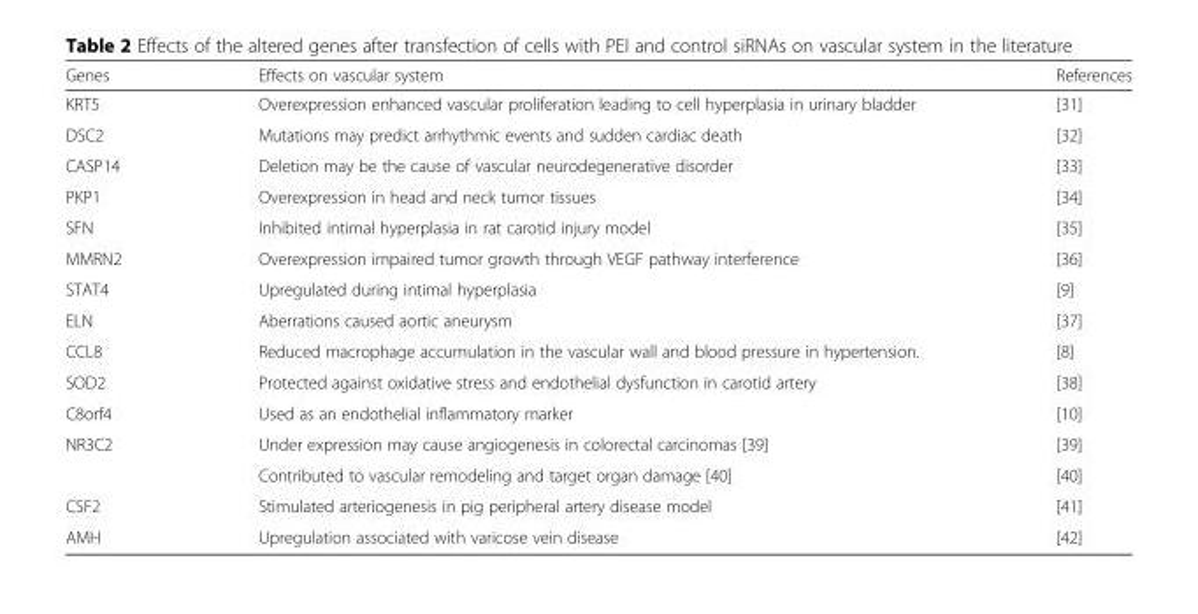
<table><thead><tr><td>Genes</td><td>Effects on vascular system</td><td>References</td></tr></thead><tbody><tr><td>KRT5</td><td>Overexpression enhanced vascular proliferation leading to cell hyperplasia in urinary bladder</td><td>[31]</td></tr><tr><td>DSC2</td><td>Mutations may predict arrhythmic events and sudden cardiac death</td><td>[32]</td></tr><tr><td>CASP14</td><td>Deletion may be the cause of vascular neurodegenerative disorder</td><td>[33]</td></tr><tr><td>PKP1</td><td>Overexpression in head and neck tumor tissues</td><td>[34]</td></tr><tr><td>SFN</td><td>Inhibited intimal hyperplasia in rat carotid injury model</td><td>[35]</td></tr><tr><td>MMRN2</td><td>Overexpression impaired tumor growth through VEGF pathway interference</td><td>[36]</td></tr><tr><td>STAT4</td><td>Upregulated during intimal hyperplasia</td><td>[9]</td></tr><tr><td>ELN</td><td>Aberrations caused aortic aneurysm</td><td>[37]</td></tr><tr><td>CCL8</td><td>Reduced macrophage accumulation in the vascular wall and blood pressure in hypertension.</td><td>[8]</td></tr><tr><td>SOD2</td><td>Protected against oxidative stress and endothelial dysfunction in carotid artery</td><td>[38]</td></tr><tr><td>C8orf4</td><td>Used as an endothelial inflammatory marker</td><td>[10]</td></tr><tr><td rowspan="2">NR3C2</td><td>Under expression may cause angiogenesis in colorectal carcinomas [39]</td><td>[39]</td></tr><tr><td>Contributed to vascular remodeling and target organ damage [40]</td><td>[40]</td></tr><tr><td>CSF2</td><td>Stimulated arteriogenesis in pig peripheral artery disease model</td><td>[41]</td></tr><tr><td>AMH</td><td>Upregulation associated with varicose vein disease</td><td>[42]</td></tr></tbody></table>